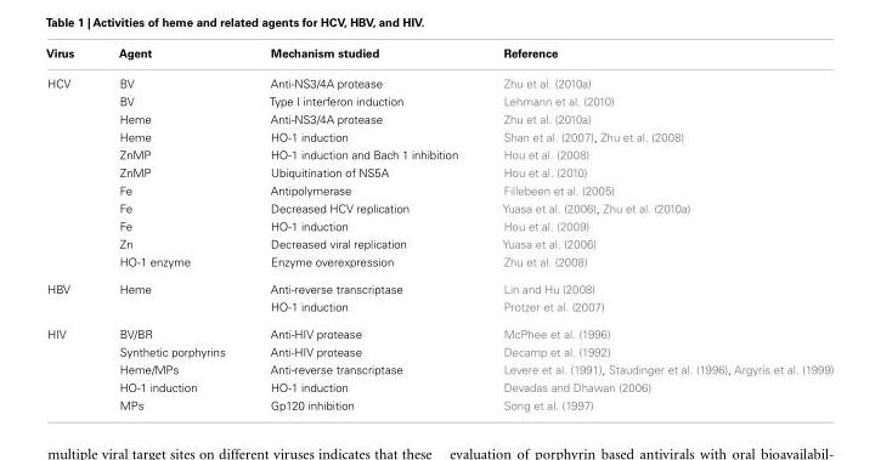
<table><thead><tr><td>Virus</td><td>Agent</td><td>Mechanism studied</td><td>Reference</td></tr></thead><tbody><tr><td rowspan="11">HCV</td><td>BV</td><td>Anti-NS3/4A protease</td><td>Zhu et al. (2010a)</td></tr><tr><td>BV</td><td>Type I interferon induction</td><td>Lehmann et al. (2010)</td></tr><tr><td>Heme</td><td>Anti-NS3/4A protease</td><td>Zhu et al. (2010a)</td></tr><tr><td>Heme</td><td>HO-1 induction</td><td>Shan et al. (2007), Zhu et al. (2008)</td></tr><tr><td>ZnMP</td><td>HO-1 induction and Bach 1 inhibition</td><td>Hou et al. (2008)</td></tr><tr><td>ZnMP</td><td>Ubiquitination of NS5A</td><td>Hou et al. (2010)</td></tr><tr><td>Fe</td><td>Antipolymerase</td><td>Fillebeen et al. (2005)</td></tr><tr><td>Fe</td><td>Decreased HCV replication</td><td>Yuasa et al. (2006), Zhu et al. (2010a)</td></tr><tr><td>Fe</td><td>HO-1 induction</td><td>Hou et al. (2009)</td></tr><tr><td>Zn</td><td>Decreased viral replication</td><td>Yuasa et al. (2006)</td></tr><tr><td>HO-1 enzyme</td><td>Enzyme overexpression</td><td>Zhu et al. (2008)</td></tr><tr><td rowspan="2">HBV</td><td>Heme</td><td>Anti-reverse transcriptase</td><td>Lin and Hu (2008)</td></tr><tr><td></td><td>HO-1 induction</td><td>Protzer et al. (2007)</td></tr><tr><td rowspan="5">HIV</td><td>BV/BR</td><td>Anti-HIV protease</td><td>McPhee et al. (1996)</td></tr><tr><td>Synthetic porphyrins</td><td>Anti-HIV protease</td><td>Decamp et al. (1992)</td></tr><tr><td>Heme/MPs</td><td>Anti-reverse transcriptase</td><td>Levere et al. (1991), Staudinger et al. (1996), Argyris et al. (1999)</td></tr><tr><td>HO-1 induction</td><td>HO-1 induction</td><td>Devadas and Dhawan (2006)</td></tr><tr><td>MPs</td><td>Gp120 inhibition</td><td>Song et al. (1997)</td></tr></tbody></table>